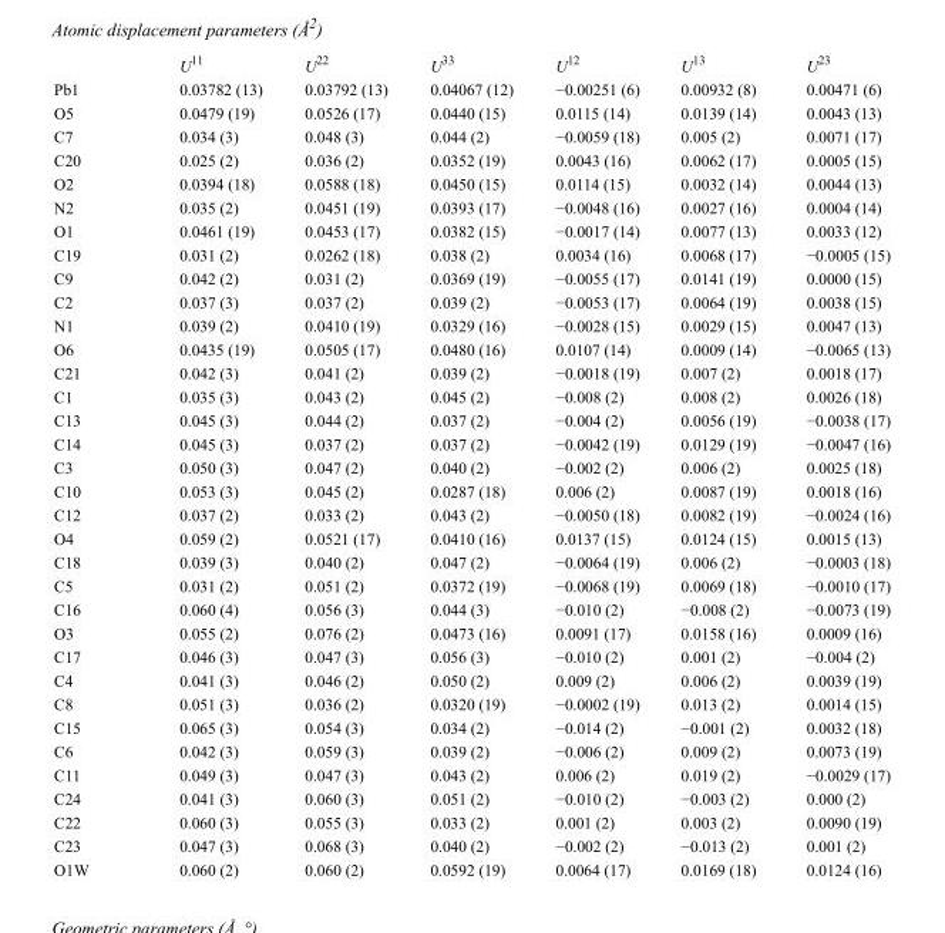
<table><thead><tr><td></td><td>U<sup>11</sup></td><td>U<sup>22</sup></td><td>U<sup>33</sup></td><td>U<sup>12</sup></td><td>U<sup>13</sup></td><td>U<sup>23</sup></td></tr></thead><tbody><tr><td>Pb1</td><td>0.03782 (13)</td><td>0.03792 (13)</td><td>0.04067 (12)</td><td>−0.00251 (6)</td><td>0.00932 (8)</td><td>0.00471 (6)</td></tr><tr><td>O5</td><td>0.0479 (19)</td><td>0.0526 (17)</td><td>0.0440 (15)</td><td>0.0115 (14)</td><td>0.0139 (14)</td><td>0.0043 (13)</td></tr><tr><td>C7</td><td>0.034 (3)</td><td>0.048 (3)</td><td>0.044 (2)</td><td>−0.0059 (18)</td><td>0.005 (2)</td><td>0.0071 (17)</td></tr><tr><td>C20</td><td>0.025 (2)</td><td>0.036 (2)</td><td>0.0352 (19)</td><td>0.0043 (16)</td><td>0.0062 (17)</td><td>0.0005 (15)</td></tr><tr><td>O2</td><td>0.0394 (18)</td><td>0.0588 (18)</td><td>0.0450 (15)</td><td>0.0114 (15)</td><td>0.0032 (14)</td><td>0.0044 (13)</td></tr><tr><td>N2</td><td>0.035 (2)</td><td>0.0451 (19)</td><td>0.0393 (17)</td><td>−0.0048 (16)</td><td>0.0027 (16)</td><td>0.0004 (14)</td></tr><tr><td>O1</td><td>0.0461 (19)</td><td>0.0453 (17)</td><td>0.0382 (15)</td><td>−0.0017 (14)</td><td>0.0077 (13)</td><td>0.0033 (12)</td></tr><tr><td>C19</td><td>0.031 (2)</td><td>0.0262 (18)</td><td>0.038 (2)</td><td>0.0034 (16)</td><td>0.0068 (17)</td><td>−0.0005 (15)</td></tr><tr><td>C9</td><td>0.042 (2)</td><td>0.031 (2)</td><td>0.0369 (19)</td><td>−0.0055 (17)</td><td>0.0141 (19)</td><td>0.0000 (15)</td></tr><tr><td>C2</td><td>0.037 (3)</td><td>0.037 (2)</td><td>0.039 (2)</td><td>−0.0053 (17)</td><td>0.0064 (19)</td><td>0.0038 (15)</td></tr><tr><td>N1</td><td>0.039 (2)</td><td>0.0410 (19)</td><td>0.0329 (16)</td><td>−0.0028 (15)</td><td>0.0029 (15)</td><td>0.0047 (13)</td></tr><tr><td>O6</td><td>0.0435 (19)</td><td>0.0505 (17)</td><td>0.0480 (16)</td><td>0.0107 (14)</td><td>0.0009 (14)</td><td>−0.0065 (13)</td></tr><tr><td>C21</td><td>0.042 (3)</td><td>0.041 (2)</td><td>0.039 (2)</td><td>−0.0018 (19)</td><td>0.007 (2)</td><td>0.0018 (17)</td></tr><tr><td>C1</td><td>0.035 (3)</td><td>0.043 (2)</td><td>0.045 (2)</td><td>−0.008 (2)</td><td>0.008 (2)</td><td>0.0026 (18)</td></tr><tr><td>C13</td><td>0.045 (3)</td><td>0.044 (2)</td><td>0.037 (2)</td><td>−0.004 (2)</td><td>0.0056 (19)</td><td>−0.0038 (17)</td></tr><tr><td>C14</td><td>0.045 (3)</td><td>0.037 (2)</td><td>0.037 (2)</td><td>−0.0042 (19)</td><td>0.0129 (19)</td><td>−0.0047 (16)</td></tr><tr><td>C3</td><td>0.050 (3)</td><td>0.047 (2)</td><td>0.040 (2)</td><td>−0.002 (2)</td><td>0.006 (2)</td><td>0.0025 (18)</td></tr><tr><td>C10</td><td>0.053 (3)</td><td>0.045 (2)</td><td>0.0287 (18)</td><td>0.006 (2)</td><td>0.0087 (19)</td><td>0.0018 (16)</td></tr><tr><td>C12</td><td>0.037 (2)</td><td>0.033 (2)</td><td>0.043 (2)</td><td>−0.0050 (18)</td><td>0.0082 (19)</td><td>−0.0024 (16)</td></tr><tr><td>O4</td><td>0.059 (2)</td><td>0.0521 (17)</td><td>0.0410 (16)</td><td>0.0137 (15)</td><td>0.0124 (15)</td><td>0.0015 (13)</td></tr><tr><td>C18</td><td>0.039 (3)</td><td>0.040 (2)</td><td>0.047 (2)</td><td>−0.0064 (19)</td><td>0.006 (2)</td><td>−0.0003 (18)</td></tr><tr><td>C5</td><td>0.031 (2)</td><td>0.051 (2)</td><td>0.0372 (19)</td><td>−0.0068 (19)</td><td>0.0069 (18)</td><td>−0.0010 (17)</td></tr><tr><td>C16</td><td>0.060 (4)</td><td>0.056 (3)</td><td>0.044 (3)</td><td>−0.010 (2)</td><td>−0.008 (2)</td><td>−0.0073 (19)</td></tr><tr><td>O3</td><td>0.055 (2)</td><td>0.076 (2)</td><td>0.0473 (16)</td><td>0.0091 (17)</td><td>0.0158 (16)</td><td>0.0009 (16)</td></tr><tr><td>C17</td><td>0.046 (3)</td><td>0.047 (3)</td><td>0.056 (3)</td><td>−0.010 (2)</td><td>0.001 (2)</td><td>−0.004 (2)</td></tr><tr><td>C4</td><td>0.041 (3)</td><td>0.046 (2)</td><td>0.050 (2)</td><td>0.009 (2)</td><td>0.006 (2)</td><td>0.0039 (19)</td></tr><tr><td>C8</td><td>0.051 (3)</td><td>0.036 (2)</td><td>0.0320 (19)</td><td>−0.0002 (19)</td><td>0.013 (2)</td><td>0.0014 (15)</td></tr><tr><td>C15</td><td>0.065 (3)</td><td>0.054 (3)</td><td>0.034 (2)</td><td>−0.014 (2)</td><td>−0.001 (2)</td><td>0.0032 (18)</td></tr><tr><td>C6</td><td>0.042 (3)</td><td>0.059 (3)</td><td>0.039 (2)</td><td>−0.006 (2)</td><td>0.009 (2)</td><td>0.0073 (19)</td></tr><tr><td>C11</td><td>0.049 (3)</td><td>0.047 (3)</td><td>0.043 (2)</td><td>0.006 (2)</td><td>0.019 (2)</td><td>−0.0029 (17)</td></tr><tr><td>C24</td><td>0.041 (3)</td><td>0.060 (3)</td><td>0.051 (2)</td><td>−0.010 (2)</td><td>−0.003 (2)</td><td>0.000 (2)</td></tr><tr><td>C22</td><td>0.060 (3)</td><td>0.055 (3)</td><td>0.033 (2)</td><td>0.001 (2)</td><td>0.003 (2)</td><td>0.0090 (19)</td></tr><tr><td>C23</td><td>0.047 (3)</td><td>0.068 (3)</td><td>0.040 (2)</td><td>−0.002 (2)</td><td>−0.013 (2)</td><td>0.001 (2)</td></tr><tr><td>O1W</td><td>0.060 (2)</td><td>0.060 (2)</td><td>0.0592 (19)</td><td>0.0064 (17)</td><td>0.0169 (18)</td><td>0.0124 (16)</td></tr></tbody></table>